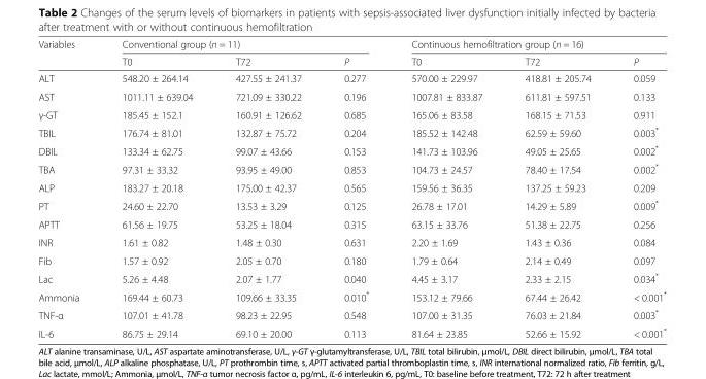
<table><thead><tr><td rowspan="2">Variables</td><td colspan="3">Conventional group (n = 11)</td><td colspan="3">Continuous hemofiltration group (n = 16)</td></tr><tr><td>T0</td><td>T72</td><td>P</td><td>T0</td><td>T72</td><td>P</td></tr></thead><tbody><tr><td>ALT</td><td>548.20 ± 264.14</td><td>427.55 ± 241.37</td><td>0.277</td><td>570.00 ± 229.97</td><td>418.81 ± 205.74</td><td>0.059</td></tr><tr><td>AST</td><td>1011.11 ± 639.04</td><td>721.09 ± 330.22</td><td>0.196</td><td>1007.81 ± 833.87</td><td>611.81 ± 597.51</td><td>0.133</td></tr><tr><td>γ-GT</td><td>185.45 ± 152.1</td><td>160.91 ± 126.62</td><td>0.685</td><td>165.06 ± 83.58</td><td>168.15 ± 71.53</td><td>0.911</td></tr><tr><td>TBIL</td><td>176.74 ± 81.01</td><td>132.87 ± 75.72</td><td>0.204</td><td>185.52 ± 142.48</td><td>62.59 ± 59.60</td><td>0.003*</td></tr><tr><td>DBIL</td><td>133.34 ± 62.75</td><td>99.07 ± 43.66</td><td>0.153</td><td>141.73 ± 103.96</td><td>49.05 ± 25.65</td><td>0.002*</td></tr><tr><td>TBA</td><td>97.31 ± 33.32</td><td>93.95 ± 49.00</td><td>0.853</td><td>104.73 ± 24.57</td><td>78.40 ± 17.54</td><td>0.002*</td></tr><tr><td>ALP</td><td>183.27 ± 20.18</td><td>175.00 ± 42.37</td><td>0.565</td><td>159.56 ± 36.35</td><td>137.25 ± 59.23</td><td>0.209</td></tr><tr><td>PT</td><td>24.60 ± 22.70</td><td>13.53 ± 3.29</td><td>0.125</td><td>26.78 ± 17.01</td><td>14.29 ± 5.89</td><td>0.009*</td></tr><tr><td>APTT</td><td>61.56 ± 19.75</td><td>53.25 ± 18.04</td><td>0.315</td><td>63.15 ± 33.76</td><td>51.38 ± 22.75</td><td>0.256</td></tr><tr><td>INR</td><td>1.61 ± 0.82</td><td>1.48 ± 0.30</td><td>0.631</td><td>2.20 ± 1.69</td><td>1.43 ± 0.36</td><td>0.084</td></tr><tr><td>Fib</td><td>1.57 ± 0.92</td><td>2.05 ± 0.70</td><td>0.180</td><td>1.79 ± 0.64</td><td>2.14 ± 0.49</td><td>0.097</td></tr><tr><td>Lac</td><td>5.26 ± 4.48</td><td>2.07 ± 1.77</td><td>0.040</td><td>4.45 ± 3.17</td><td>2.33 ± 2.15</td><td>0.034*</td></tr><tr><td>Ammonia</td><td>169.44 ± 60.73</td><td>109.66 ± 33.35</td><td>0.010*</td><td>153.12 ± 79.66</td><td>67.44 ± 26.42</td><td>&lt; 0.001*</td></tr><tr><td>TNF-α</td><td>107.01 ± 41.78</td><td>98.23 ± 22.95</td><td>0.548</td><td>107.00 ± 31.35</td><td>76.03 ± 21.84</td><td>0.003*</td></tr><tr><td>IL-6</td><td>86.75 ± 29.14</td><td>69.10 ± 20.00</td><td>0.113</td><td>81.64 ± 23.85</td><td>52.66 ± 15.92</td><td>&lt; 0.001*</td></tr></tbody></table>